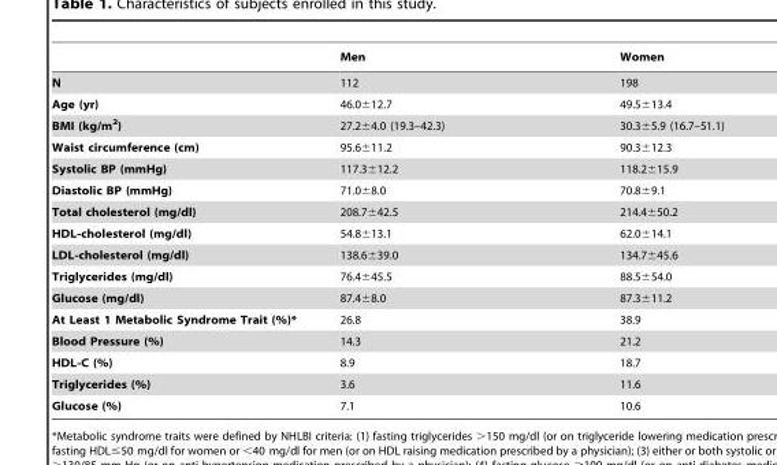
<table><thead><tr><td></td><td>Men</td><td>Women</td></tr></thead><tbody><tr><td>N</td><td>112</td><td>198</td></tr><tr><td>Age (yr)</td><td>46.0±12.7</td><td>49.5±13.4</td></tr><tr><td>BMI (kg/m<sup>2</sup>)</td><td>27.2±4.0 (19.3–42.3)</td><td>30.3±5.9 (16.7–51.1)</td></tr><tr><td>Waist circumference (cm)</td><td>95.6±11.2</td><td>90.3±12.3</td></tr><tr><td>Systolic BP (mmHg)</td><td>117.3±12.2</td><td>118.2±15.9</td></tr><tr><td>Diastolic BP (mmHg)</td><td>71.0±8.0</td><td>70.8±9.1</td></tr><tr><td>Total cholesterol (mg/dl)</td><td>208.7±42.5</td><td>214.4±50.2</td></tr><tr><td>HDL-cholesterol (mg/dl)</td><td>54.8±13.1</td><td>62.0±14.1</td></tr><tr><td>LDL-cholesterol (mg/dl)</td><td>138.6±39.0</td><td>134.7±45.6</td></tr><tr><td>Triglycerides (mg/dl)</td><td>76.4±45.5</td><td>88.5±54.0</td></tr><tr><td>Glucose (mg/dl)</td><td>87.4±8.0</td><td>87.3±11.2</td></tr><tr><td>At Least 1 Metabolic Syndrome Trait (%)*</td><td>26.8</td><td>38.9</td></tr><tr><td>Blood Pressure (%)</td><td>14.3</td><td>21.2</td></tr><tr><td>HDL-C (%)</td><td>8.9</td><td>18.7</td></tr><tr><td>Triglycerides (%)</td><td>3.6</td><td>11.6</td></tr><tr><td>Glucose (%)</td><td>7.1</td><td>10.6</td></tr></tbody></table>